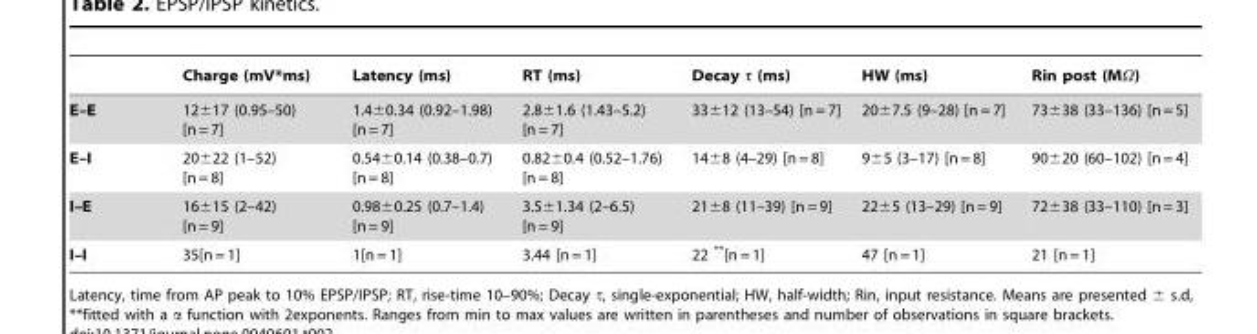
<table><thead><tr><td></td><td>Charge (mV*ms)</td><td>Latency (ms)</td><td>RT (ms)</td><td>Decay τ (ms)</td><td>HW (ms)</td><td>Rin post (MΩ)</td></tr></thead><tbody><tr><td>E–E</td><td>12±17 (0.95–50) [n = 7]</td><td>1.4±0.34 (0.92–1.98) [n = 7]</td><td>2.8±1.6 (1.43–5.2) [n = 7]</td><td>33±12 (13–54) [n = 7]</td><td>20±7.5 (9–28) [n = 7]</td><td>73±38 (33–136) [n = 5]</td></tr><tr><td>E–I</td><td>20±22 (1–52) [n = 8]</td><td>0.54±0.14 (0.38–0.7) [n = 8]</td><td>0.82±0.4 (0.52–1.76) [n = 8]</td><td>14±8 (4–29) [n = 8]</td><td>9±5 (3–17) [n = 8]</td><td>90±20 (60–102) [n = 4]</td></tr><tr><td>I–E</td><td>16±15 (2–42) [n = 9]</td><td>0.98±0.25 (0.7–1.4) [n = 9]</td><td>3.5±1.34 (2–6.5) [n = 9]</td><td>21±8 (11–39) [n = 9]</td><td>22±5 (13–29) [n = 9]</td><td>72±38 (33–110) [n = 3]</td></tr><tr><td>I–I</td><td>35[n = 1]</td><td>1[n = 1]</td><td>3.44 [n = 1]</td><td>22 **[n = 1]</td><td>47 [n = 1]</td><td>21 [n = 1]</td></tr></tbody></table>